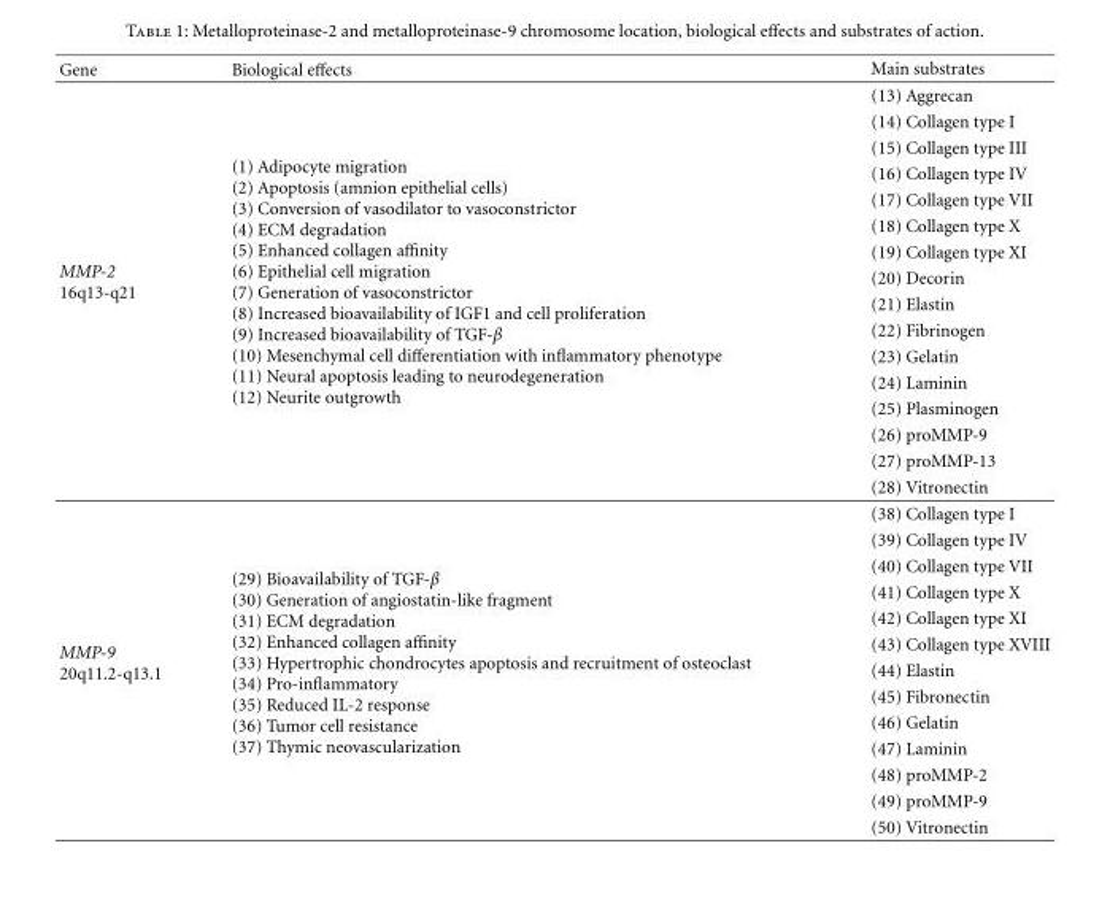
<table><thead><tr><td>Gene</td><td>Biological effects</td><td>Main substrates</td></tr></thead><tbody><tr><td rowspan="16">MMP-2 16q13-q21</td><td rowspan="16">(1) Adipocyte migration (2) Apoptosis (amnion epithelial cells) (3) Conversion of vasodilator to vasoconstrictor (4) ECM degradation (5) Enhanced collagen affinity (6) Epithelial cell migration (7) Generation of vasoconstrictor (8) Increased bioavailability of IGF1 and cell proliferation (9) Increased bioavailability of TGF-β (10) Mesenchymal cell differentiation with inflammatory phenotype (11) Neural apoptosis leading to neurodegeneration (12) Neurite outgrowth</td><td>(13) Aggrecan</td></tr><tr><td>(14) Collagen type I</td></tr><tr><td>(15) Collagen type III</td></tr><tr><td>(16) Collagen type IV</td></tr><tr><td>(17) Collagen type VII</td></tr><tr><td>(18) Collagen type X</td></tr><tr><td>(19) Collagen type XI</td></tr><tr><td>(20) Decorin</td></tr><tr><td>(21) Elastin</td></tr><tr><td>(22) Fibrinogen</td></tr><tr><td>(23) Gelatin</td></tr><tr><td>(24) Laminin</td></tr><tr><td>(25) Plasminogen</td></tr><tr><td>(26) proMMP-9</td></tr><tr><td>(27) proMMP-13</td></tr><tr><td>(28) Vitronectin</td></tr><tr><td rowspan="13">MMP-9 20q11.2-q13.1</td><td rowspan="13">(29) Bioavailability of TGF-β (30) Generation of angiostatin-like fragment (31) ECM degradation (32) Enhanced collagen affinity (33) Hypertrophic chondrocytes apoptosis and recruitment of osteoclast (34) Pro-inflammatory (35) Reduced IL-2 response (36) Tumor cell resistance (37) Thymic neovascularization</td><td>(38) Collagen type I</td></tr><tr><td>(39) Collagen type IV</td></tr><tr><td>(40) Collagen type VII</td></tr><tr><td>(41) Collagen type X</td></tr><tr><td>(42) Collagen type XI</td></tr><tr><td>(43) Collagen type XVIII</td></tr><tr><td>(44) Elastin</td></tr><tr><td>(45) Fibronectin</td></tr><tr><td>(46) Gelatin</td></tr><tr><td>(47) Laminin</td></tr><tr><td>(48) proMMP-2</td></tr><tr><td>(49) proMMP-9</td></tr><tr><td>(50) Vitronectin</td></tr></tbody></table>